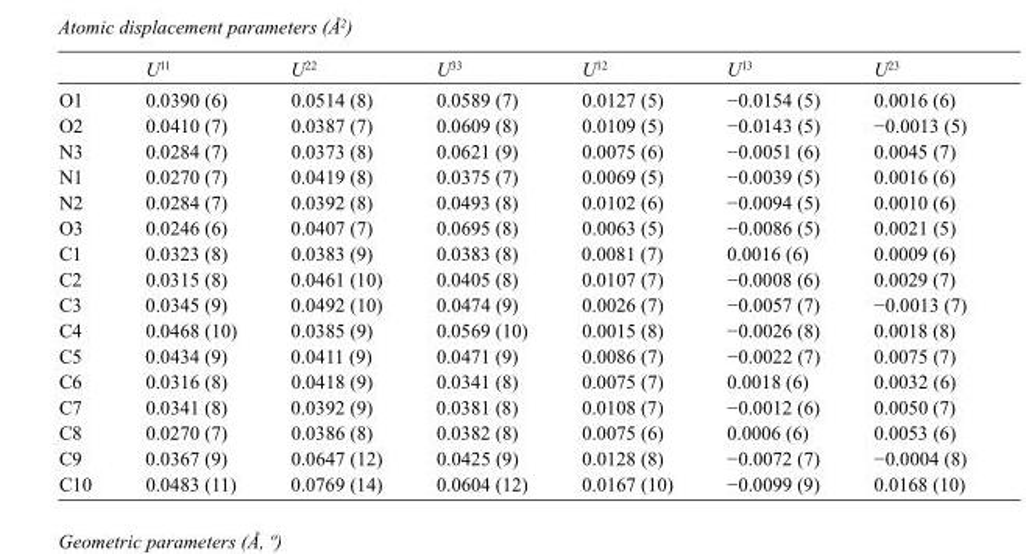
<table><thead><tr><td></td><td>U<sup>11</sup></td><td>U<sup>22</sup></td><td>U<sup>33</sup></td><td>U<sup>12</sup></td><td>U<sup>13</sup></td><td>U<sup>23</sup></td></tr></thead><tbody><tr><td>O1</td><td>0.0390 (6)</td><td>0.0514 (8)</td><td>0.0589 (7)</td><td>0.0127 (5)</td><td>−0.0154 (5)</td><td>0.0016 (6)</td></tr><tr><td>O2</td><td>0.0410 (7)</td><td>0.0387 (7)</td><td>0.0609 (8)</td><td>0.0109 (5)</td><td>−0.0143 (5)</td><td>−0.0013 (5)</td></tr><tr><td>N3</td><td>0.0284 (7)</td><td>0.0373 (8)</td><td>0.0621 (9)</td><td>0.0075 (6)</td><td>−0.0051 (6)</td><td>0.0045 (7)</td></tr><tr><td>N1</td><td>0.0270 (7)</td><td>0.0419 (8)</td><td>0.0375 (7)</td><td>0.0069 (5)</td><td>−0.0039 (5)</td><td>0.0016 (6)</td></tr><tr><td>N2</td><td>0.0284 (7)</td><td>0.0392 (8)</td><td>0.0493 (8)</td><td>0.0102 (6)</td><td>−0.0094 (5)</td><td>0.0010 (6)</td></tr><tr><td>O3</td><td>0.0246 (6)</td><td>0.0407 (7)</td><td>0.0695 (8)</td><td>0.0063 (5)</td><td>−0.0086 (5)</td><td>0.0021 (5)</td></tr><tr><td>C1</td><td>0.0323 (8)</td><td>0.0383 (9)</td><td>0.0383 (8)</td><td>0.0081 (7)</td><td>0.0016 (6)</td><td>0.0009 (6)</td></tr><tr><td>C2</td><td>0.0315 (8)</td><td>0.0461 (10)</td><td>0.0405 (8)</td><td>0.0107 (7)</td><td>−0.0008 (6)</td><td>0.0029 (7)</td></tr><tr><td>C3</td><td>0.0345 (9)</td><td>0.0492 (10)</td><td>0.0474 (9)</td><td>0.0026 (7)</td><td>−0.0057 (7)</td><td>−0.0013 (7)</td></tr><tr><td>C4</td><td>0.0468 (10)</td><td>0.0385 (9)</td><td>0.0569 (10)</td><td>0.0015 (8)</td><td>−0.0026 (8)</td><td>0.0018 (8)</td></tr><tr><td>C5</td><td>0.0434 (9)</td><td>0.0411 (9)</td><td>0.0471 (9)</td><td>0.0086 (7)</td><td>−0.0022 (7)</td><td>0.0075 (7)</td></tr><tr><td>C6</td><td>0.0316 (8)</td><td>0.0418 (9)</td><td>0.0341 (8)</td><td>0.0075 (7)</td><td>0.0018 (6)</td><td>0.0032 (6)</td></tr><tr><td>C7</td><td>0.0341 (8)</td><td>0.0392 (9)</td><td>0.0381 (8)</td><td>0.0108 (7)</td><td>−0.0012 (6)</td><td>0.0050 (7)</td></tr><tr><td>C8</td><td>0.0270 (7)</td><td>0.0386 (8)</td><td>0.0382 (8)</td><td>0.0075 (6)</td><td>0.0006 (6)</td><td>0.0053 (6)</td></tr><tr><td>C9</td><td>0.0367 (9)</td><td>0.0647 (12)</td><td>0.0425 (9)</td><td>0.0128 (8)</td><td>−0.0072 (7)</td><td>−0.0004 (8)</td></tr><tr><td>C10</td><td>0.0483 (11)</td><td>0.0769 (14)</td><td>0.0604 (12)</td><td>0.0167 (10)</td><td>−0.0099 (9)</td><td>0.0168 (10)</td></tr></tbody></table>